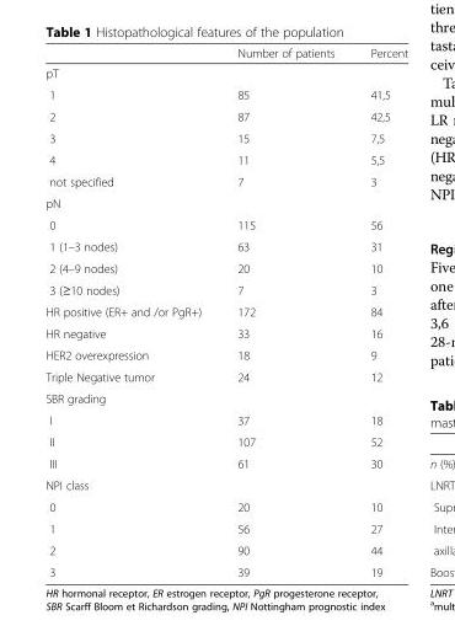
<table><thead><tr><td></td><td>Number of patients</td><td>Percent</td></tr></thead><tbody><tr><td colspan="3">pT</td></tr><tr><td>1</td><td>85</td><td>41,5</td></tr><tr><td>2</td><td>87</td><td>42,5</td></tr><tr><td>3</td><td>15</td><td>7,5</td></tr><tr><td>4</td><td>11</td><td>5,5</td></tr><tr><td>not specified</td><td>7</td><td>3</td></tr><tr><td colspan="3">pN</td></tr><tr><td>0</td><td>115</td><td>56</td></tr><tr><td>1 (1–3 nodes)</td><td>63</td><td>31</td></tr><tr><td>2 (4–9 nodes)</td><td>20</td><td>10</td></tr><tr><td>3 (≥10 nodes)</td><td>7</td><td>3</td></tr><tr><td>HR positive (ER+ and /or PgR+)</td><td>172</td><td>84</td></tr><tr><td>HR negative</td><td>33</td><td>16</td></tr><tr><td>HER2 overexpression</td><td>18</td><td>9</td></tr><tr><td>Triple Negative tumor</td><td>24</td><td>12</td></tr><tr><td colspan="3">SBR grading</td></tr><tr><td>I</td><td>37</td><td>18</td></tr><tr><td>II</td><td>107</td><td>52</td></tr><tr><td>III</td><td>61</td><td>30</td></tr><tr><td colspan="3">NPI class</td></tr><tr><td>0</td><td>20</td><td>10</td></tr><tr><td>1</td><td>56</td><td>27</td></tr><tr><td>2</td><td>90</td><td>44</td></tr><tr><td>3</td><td>39</td><td>19</td></tr></tbody></table>